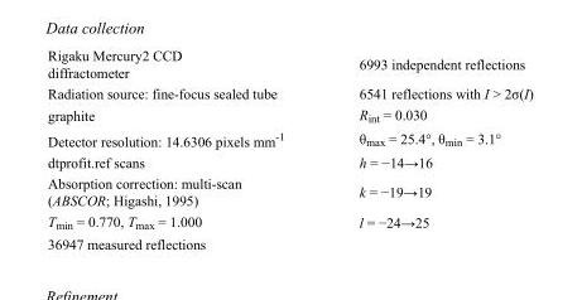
<table><tbody><tr><td>Rigaku Mercury2 CCD diffractometer</td><td>6993 independent reflections</td></tr><tr><td>Radiation source: fine-focus sealed tube</td><td>6541 reflections with I &gt; 2σ(I)</td></tr><tr><td>graphite</td><td>R<sub>int</sub> = 0.030</td></tr><tr><td>Detector resolution: 14.6306 pixels mm<sup>-1</sup></td><td>θ<sub>max</sub> = 25.4°, θ<sub>min</sub> = 3.1°</td></tr><tr><td>dtprofit.ref scans</td><td>h = −14→16</td></tr><tr><td>Absorption correction: multi-scan (ABSCOR; Higashi, 1995)</td><td>k = −19→19</td></tr><tr><td>T<sub>min</sub> = 0.770, T<sub>max</sub> = 1.000</td><td>l = −24→25</td></tr><tr><td>36947 measured reflections</td><td></td></tr></tbody></table>